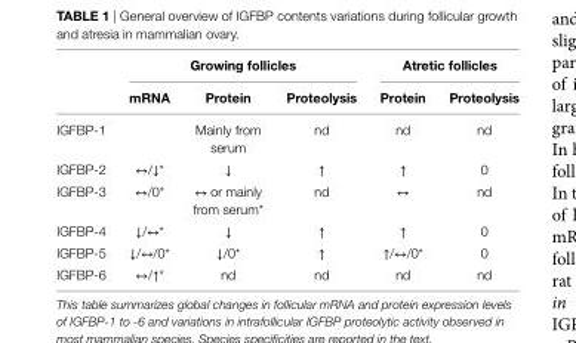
<table><thead><tr><td rowspan="2"></td><td colspan="3">Growing follicles</td><td colspan="2">Atretic follicles</td></tr><tr><td>mRNA</td><td>Protein</td><td>Proteolysis</td><td>Protein</td><td>Proteolysis</td></tr></thead><tbody><tr><td>IGFBP-1</td><td></td><td>Mainly from serum</td><td>nd</td><td>nd</td><td>nd</td></tr><tr><td>IGFBP-2</td><td>↔/↓*</td><td>↓</td><td>↑</td><td>↑</td><td>0</td></tr><tr><td>IGFBP-3</td><td>↔/0*</td><td>↔ or mainly from serum*</td><td>nd</td><td>↔</td><td>nd</td></tr><tr><td>IGFBP-4</td><td>↓/↔*</td><td>↓</td><td>↑</td><td>↑</td><td>0</td></tr><tr><td>IGFBP-5</td><td>↓/↔/0*</td><td>↓/0*</td><td>↑</td><td>↑/↔/0*</td><td>0</td></tr><tr><td>IGFBP-6</td><td>↔/↑*</td><td>nd</td><td>nd</td><td>nd</td><td>nd</td></tr></tbody></table>